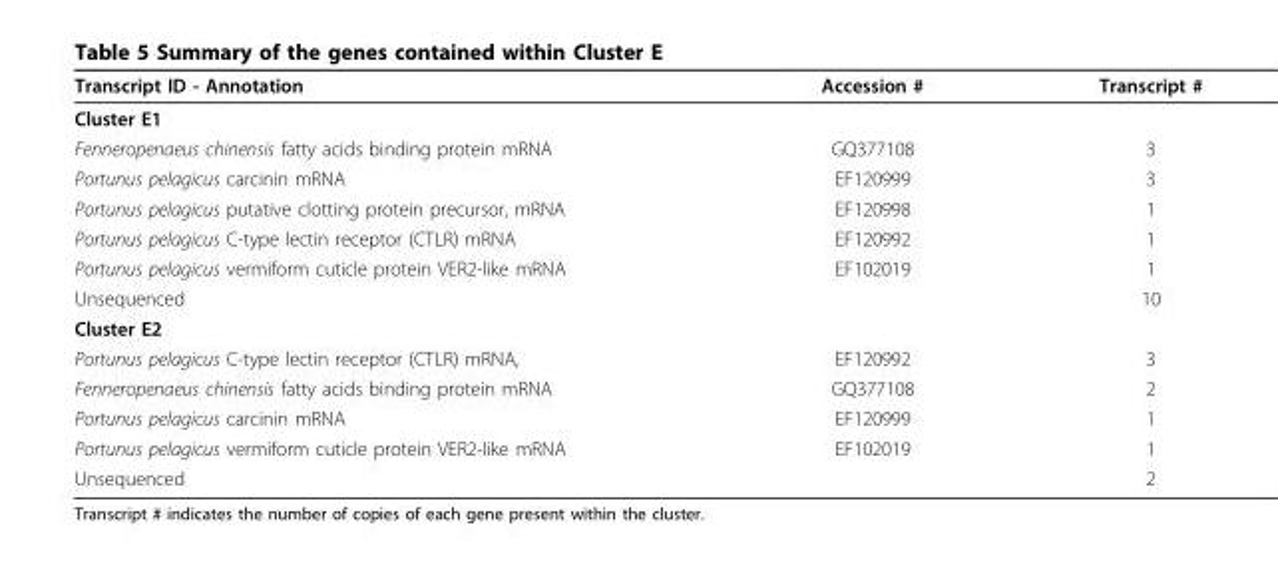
<table><thead><tr><td>Transcript ID - Annotation</td><td>Accession #</td><td>Transcript #</td></tr></thead><tbody><tr><td colspan="3">Cluster E1</td></tr><tr><td>Fenneropenaeus chinensis fatty acids binding protein mRNA</td><td>GQ377108</td><td>3</td></tr><tr><td>Portunus pelagicus carcinin mRNA</td><td>EF120999</td><td>3</td></tr><tr><td>Portunus pelagicus putative clotting protein precursor, mRNA</td><td>EF120998</td><td>1</td></tr><tr><td>Portunus pelagicus C-type lectin receptor (CTLR) mRNA</td><td>EF120992</td><td>1</td></tr><tr><td>Portunus pelagicus vermiform cuticle protein VER2-like mRNA</td><td>EF102019</td><td>1</td></tr><tr><td>Unsequenced</td><td></td><td>10</td></tr><tr><td colspan="3">Cluster E2</td></tr><tr><td>Portunus pelagicus C-type lectin receptor (CTLR) mRNA,</td><td>EF120992</td><td>3</td></tr><tr><td>Fenneropenaeus chinensis fatty acids binding protein mRNA</td><td>GQ377108</td><td>2</td></tr><tr><td>Portunus pelagicus carcinin mRNA</td><td>EF120999</td><td>1</td></tr><tr><td>Portunus pelagicus vermiform cuticle protein VER2-like mRNA</td><td>EF102019</td><td>1</td></tr><tr><td>Unsequenced</td><td></td><td>2</td></tr></tbody></table>